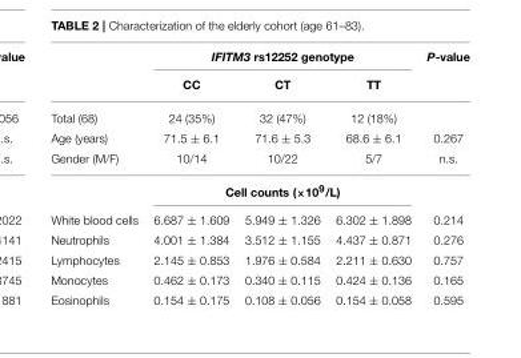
<table><thead><tr><td rowspan="2"></td><td colspan="3">IFITM3 rs12252 genotype</td><td rowspan="2">P-value</td></tr><tr><td>CC</td><td>CT</td><td>TT</td></tr></thead><tbody><tr><td>Total (68)</td><td>24 (35%)</td><td>32 (47%)</td><td>12 (18%)</td><td></td></tr><tr><td>Age (years)</td><td>71.5 ± 6.1</td><td>71.6 ± 5.3</td><td>68.6 ± 6.1</td><td>0.267</td></tr><tr><td rowspan="2">Gender (M/F)</td><td>10/14</td><td>10/22</td><td>5/7</td><td>n.s.</td></tr><tr><td colspan="3">Cell counts (×10<sup>9</sup>/L)</td><td></td></tr><tr><td>White blood cells</td><td>6.687 ± 1.609</td><td>5.949 ± 1.326</td><td>6.302 ± 1.898</td><td>0.214</td></tr><tr><td>Neutrophils</td><td>4.001 ± 1.384</td><td>3.512 ± 1.155</td><td>4.437 ± 0.871</td><td>0.276</td></tr><tr><td>Lymphocytes</td><td>2.145 ± 0.853</td><td>1.976 ± 0.584</td><td>2.211 ± 0.630</td><td>0.757</td></tr><tr><td>Monocytes</td><td>0.462 ± 0.173</td><td>0.340 ± 0.115</td><td>0.424 ± 0.136</td><td>0.165</td></tr><tr><td>Eosinophils</td><td>0.154 ± 0.175</td><td>0.108 ± 0.056</td><td>0.154 ± 0.058</td><td>0.595</td></tr></tbody></table>